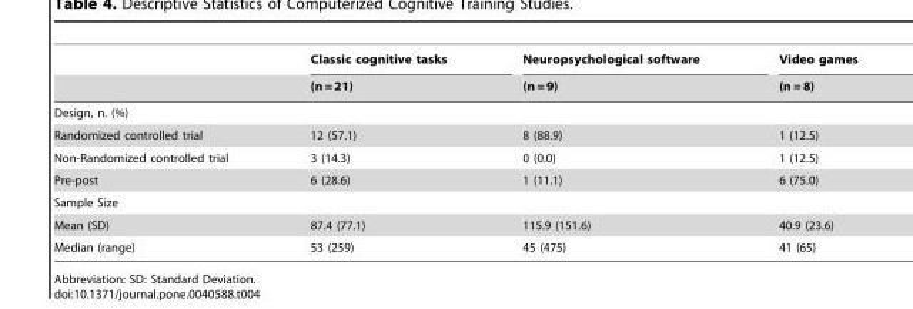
<table><thead><tr><td rowspan="2"></td><td rowspan="2">Classic cognitive tasks (n = 21)</td><td rowspan="2">Neuropsychological software (n = 9)</td><td rowspan="2">Video games (n = 8)</td></tr><tr></tr></thead><tbody><tr><td colspan="4">Design, n. (%)</td></tr><tr><td>Randomized controlled trial</td><td>12 (57.1)</td><td>8 (88.9)</td><td>1 (12.5)</td></tr><tr><td>Non-Randomized controlled trial</td><td>3 (14.3)</td><td>0 (0.0)</td><td>1 (12.5)</td></tr><tr><td>Pre-post</td><td>6 (28.6)</td><td>1 (11.1)</td><td>6 (75.0)</td></tr><tr><td colspan="4">Sample Size</td></tr><tr><td>Mean (SD)</td><td>87.4 (77.1)</td><td>115.9 (151.6)</td><td>40.9 (23.6)</td></tr><tr><td>Median (range)</td><td>53 (259)</td><td>45 (475)</td><td>41 (65)</td></tr></tbody></table>